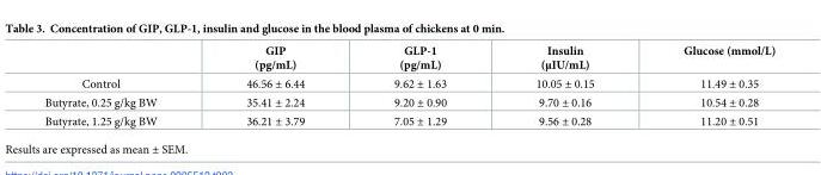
<table><thead><tr><td></td><td>GIP (pg/mL)</td><td>GLP-1 (pg/mL)</td><td>Insulin (μIU/mL)</td><td>Glucose (mmol/L)</td></tr></thead><tbody><tr><td>Control</td><td>46.56 ± 6.44</td><td>9.62 ± 1.63</td><td>10.05 ± 0.15</td><td>11.49 ± 0.35</td></tr><tr><td>Butyrate, 0.25 g/kg BW</td><td>35.41 ± 2.24</td><td>9.20 ± 0.90</td><td>9.70 ± 0.16</td><td>10.54 ± 0.28</td></tr><tr><td>Butyrate, 1.25 g/kg BW</td><td>36.21 ± 3.79</td><td>7.05 ± 1.29</td><td>9.56 ± 0.28</td><td>11.20 ± 0.51</td></tr></tbody></table>